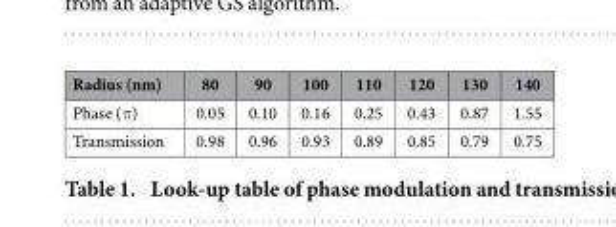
<table><thead><tr><td>Radius (nm)</td><td>80</td><td>90</td><td>100</td><td>110</td><td>120</td><td>130</td><td>140</td></tr></thead><tbody><tr><td>Phase (π )</td><td>0.05</td><td>0.10</td><td>0.16</td><td>0.25</td><td>0.43</td><td>0.87</td><td>1.55</td></tr><tr><td>Transmission</td><td>0.98</td><td>0.96</td><td>0.93</td><td>0.89</td><td>0.85</td><td>0.79</td><td>0.75</td></tr></tbody></table>